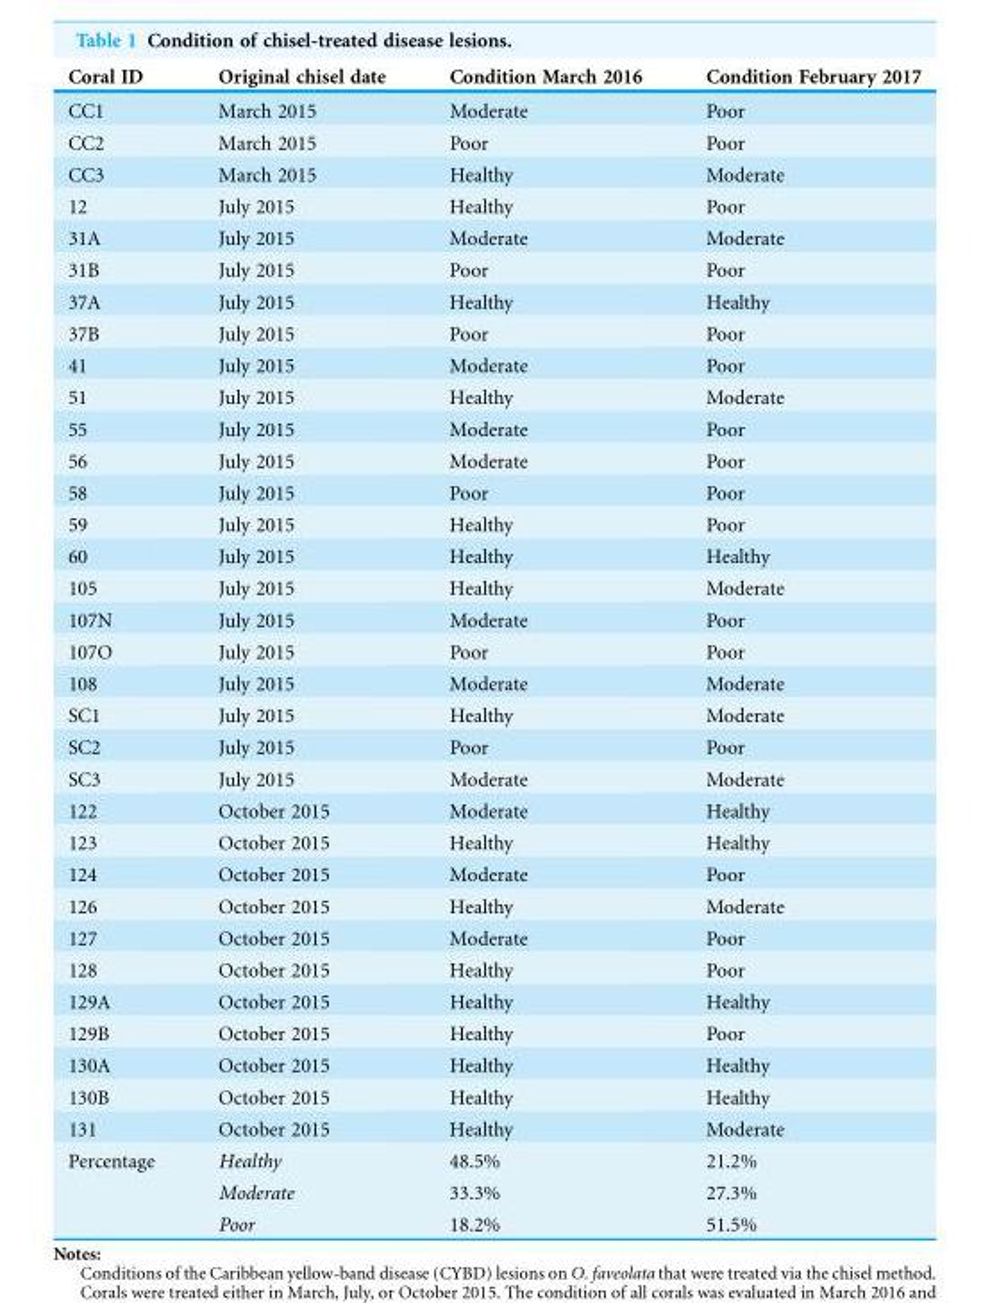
<table><thead><tr><td>Coral ID</td><td>Original chisel date</td><td>Condition March 2016</td><td>Condition February 2017</td></tr></thead><tbody><tr><td>CC1</td><td>March 2015</td><td>Moderate</td><td>Poor</td></tr><tr><td>CC2</td><td>March 2015</td><td>Poor</td><td>Poor</td></tr><tr><td>CC3</td><td>March 2015</td><td>Healthy</td><td>Moderate</td></tr><tr><td>12</td><td>July 2015</td><td>Healthy</td><td>Poor</td></tr><tr><td>31A</td><td>July 2015</td><td>Moderate</td><td>Moderate</td></tr><tr><td>31B</td><td>July 2015</td><td>Poor</td><td>Poor</td></tr><tr><td>37A</td><td>July 2015</td><td>Healthy</td><td>Healthy</td></tr><tr><td>37B</td><td>July 2015</td><td>Poor</td><td>Poor</td></tr><tr><td>41</td><td>July 2015</td><td>Moderate</td><td>Poor</td></tr><tr><td>51</td><td>July 2015</td><td>Healthy</td><td>Moderate</td></tr><tr><td>55</td><td>July 2015</td><td>Moderate</td><td>Poor</td></tr><tr><td>56</td><td>July 2015</td><td>Moderate</td><td>Poor</td></tr><tr><td>58</td><td>July 2015</td><td>Poor</td><td>Poor</td></tr><tr><td>59</td><td>July 2015</td><td>Healthy</td><td>Poor</td></tr><tr><td>60</td><td>July 2015</td><td>Healthy</td><td>Healthy</td></tr><tr><td>105</td><td>July 2015</td><td>Healthy</td><td>Moderate</td></tr><tr><td>107N</td><td>July 2015</td><td>Moderate</td><td>Poor</td></tr><tr><td>107O</td><td>July 2015</td><td>Poor</td><td>Poor</td></tr><tr><td>108</td><td>July 2015</td><td>Moderate</td><td>Moderate</td></tr><tr><td>SC1</td><td>July 2015</td><td>Healthy</td><td>Moderate</td></tr><tr><td>SC2</td><td>July 2015</td><td>Poor</td><td>Poor</td></tr><tr><td>SC3</td><td>July 2015</td><td>Moderate</td><td>Moderate</td></tr><tr><td>122</td><td>October 2015</td><td>Moderate</td><td>Healthy</td></tr><tr><td>123</td><td>October 2015</td><td>Healthy</td><td>Healthy</td></tr><tr><td>124</td><td>October 2015</td><td>Moderate</td><td>Poor</td></tr><tr><td>126</td><td>October 2015</td><td>Healthy</td><td>Moderate</td></tr><tr><td>127</td><td>October 2015</td><td>Moderate</td><td>Poor</td></tr><tr><td>128</td><td>October 2015</td><td>Healthy</td><td>Poor</td></tr><tr><td>129A</td><td>October 2015</td><td>Healthy</td><td>Healthy</td></tr><tr><td>129B</td><td>October 2015</td><td>Healthy</td><td>Poor</td></tr><tr><td>130A</td><td>October 2015</td><td>Healthy</td><td>Healthy</td></tr><tr><td>130B</td><td>October 2015</td><td>Healthy</td><td>Healthy</td></tr><tr><td>131</td><td>October 2015</td><td>Healthy</td><td>Moderate</td></tr><tr><td rowspan="3">Percentage</td><td>Healthy</td><td>48.5%</td><td>21.2%</td></tr><tr><td>Moderate</td><td>33.3%</td><td>27.3%</td></tr><tr><td>Poor</td><td>18.2%</td><td>51.5%</td></tr></tbody></table>